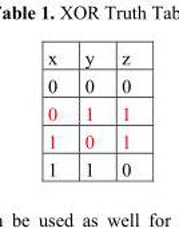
<table><thead><tr><td>x</td><td>y</td><td>z</td></tr></thead><tbody><tr><td>0</td><td>0</td><td>0</td></tr><tr><td>0</td><td>1</td><td>1</td></tr><tr><td>1</td><td>0</td><td>1</td></tr><tr><td>1</td><td>1</td><td>0</td></tr></tbody></table>